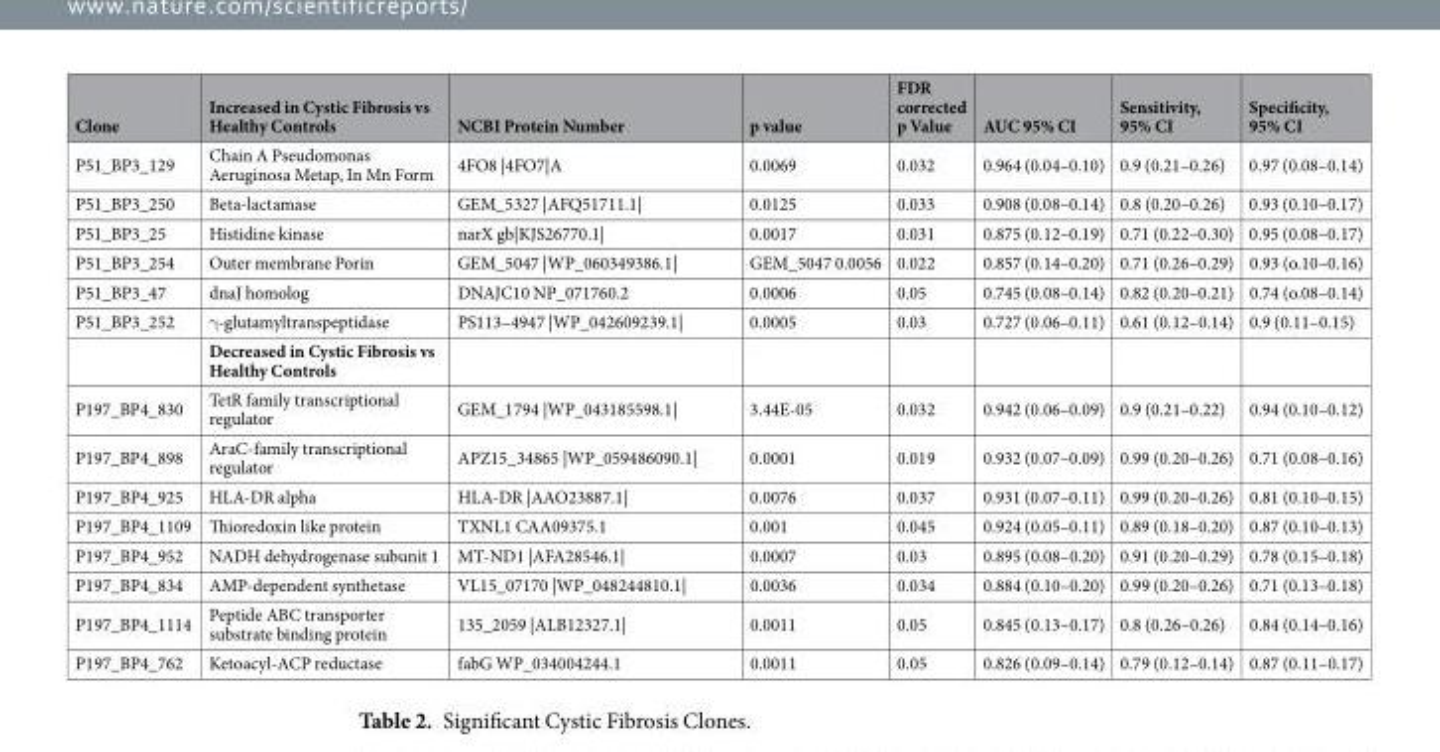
<table><thead><tr><td>Clone</td><td>Increased in Cystic Fibrosis vs Healthy Controls</td><td>NCBI Protein Number</td><td>p value</td><td>FDR corrected p Value</td><td>AUC 95% CI</td><td>Sensitivity, 95% CI</td><td>Specificity, 95% CI</td></tr></thead><tbody><tr><td>P51_BP3_129</td><td>Chain A Pseudomonas Aeruginosa Metap, In Mn Form</td><td>4FO8 |4FO7|A</td><td>0.0069</td><td>0.032</td><td>0.964 (0.04–0.10)</td><td>0.9 (0.21–0.26)</td><td>0.97 (0.08–0.14)</td></tr><tr><td>P51_BP3_250</td><td>Beta-lactamase</td><td>GEM_5327 |AFQ51711.1|</td><td>0.0125</td><td>0.033</td><td>0.908 (0.08–0.14)</td><td>0.8 (0.20–0.26)</td><td>0.93 (0.10–0.17)</td></tr><tr><td>P51_BP3_25</td><td>Histidine kinase</td><td>narX gb|KJS26770.1|</td><td>0.0017</td><td>0.031</td><td>0.875 (0.12–0.19)</td><td>0.71 (0.22–0.30)</td><td>0.95 (0.08–0.17)</td></tr><tr><td>P51_BP3_254</td><td>Outer membrane Porin</td><td>GEM_5047 |WP_060349386.1|</td><td>GEM_5047 0.0056</td><td>0.022</td><td>0.857 (0.14–0.20)</td><td>0.71 (0.26–0.29)</td><td>0.93 (o.10–0.16)</td></tr><tr><td>P51_BP3_47</td><td>dnaJ homolog</td><td>DNAJC10 NP_071760.2</td><td>0.0006</td><td>0.05</td><td>0.745 (0.08–0.14)</td><td>0.82 (0.20–0.21)</td><td>0.74 (o.08–0.14)</td></tr><tr><td rowspan="2">P51_BP3_252</td><td>γ-glutamyltranspeptidase</td><td>PS113–4947 |WP_042609239.1|</td><td>0.0005</td><td>0.03</td><td>0.727 (0.06–0.11)</td><td>0.61 (0.12–0.14)</td><td>0.9 (0.11–0.15)</td></tr><tr><td>Decreased in Cystic Fibrosis vs Healthy Controls</td><td></td><td></td><td></td><td></td><td></td><td></td></tr><tr><td>P197_BP4_830</td><td>TetR family transcriptional regulator</td><td>GEM_1794 |WP_043185598.1|</td><td>3.44E-05</td><td>0.032</td><td>0.942 (0.06–0.09)</td><td>0.9 (0.21–0.22)</td><td>0.94 (0.10–0.12)</td></tr><tr><td>P197_BP4_898</td><td>AraC-family transcriptional regulator</td><td>APZ15_34865 |WP_059486090.1|</td><td>0.0001</td><td>0.019</td><td>0.932 (0.07–0.09)</td><td>0.99 (0.20–0.26)</td><td>0.71 (0.08–0.16)</td></tr><tr><td>P197_BP4_925</td><td>HLA-DR alpha</td><td>HLA-DR |AAO23887.1|</td><td>0.0076</td><td>0.037</td><td>0.931 (0.07–0.11)</td><td>0.99 (0.20–0.26)</td><td>0.81 (0.10–0.15)</td></tr><tr><td>P197_BP4_1109</td><td>Thioredoxin like protein</td><td>TXNL1 CAA09375.1</td><td>0.001</td><td>0.045</td><td>0.924 (0.05–0.11)</td><td>0.89 (0.18–0.20)</td><td>0.87 (0.10–0.13)</td></tr><tr><td>P197_BP4_952</td><td>NADH dehydrogenase subunit 1</td><td>MT-ND1 |AFA28546.1|</td><td>0.0007</td><td>0.03</td><td>0.895 (0.08–0.20)</td><td>0.91 (0.20–0.29)</td><td>0.78 (0.15–0.18)</td></tr><tr><td>P197_BP4_834</td><td>AMP-dependent synthetase</td><td>VL15_07170 |WP_048244810.1|</td><td>0.0036</td><td>0.034</td><td>0.884 (0.10–0.20)</td><td>0.99 (0.20–0.26)</td><td>0.71 (0.13–0.18)</td></tr><tr><td>P197_BP4_1114</td><td>Peptide ABC transporter substrate binding protein</td><td>135_2059 |ALB12327.1|</td><td>0.0011</td><td>0.05</td><td>0.845 (0.13–0.17)</td><td>0.8 (0.26–0.26)</td><td>0.84 (0.14–0.16)</td></tr><tr><td>P197_BP4_762</td><td>Ketoacyl-ACP reductase</td><td>fabG WP_034004244.1</td><td>0.0011</td><td>0.05</td><td>0.826 (0.09–0.14)</td><td>0.79 (0.12–0.14)</td><td>0.87 (0.11–0.17)</td></tr></tbody></table>